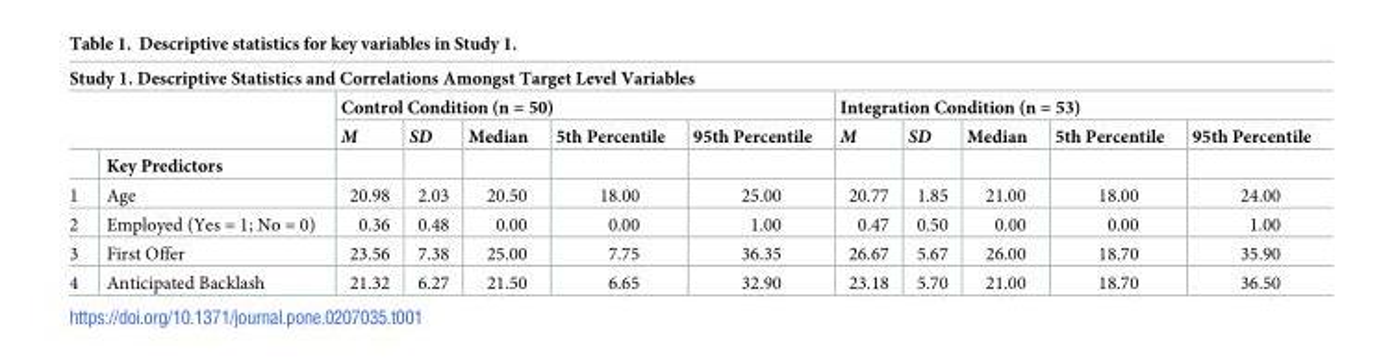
<table><thead><tr><td colspan="12">Study 1. Descriptive Statistics and Correlations Amongst Target Level Variables</td></tr><tr><td rowspan="2"></td><td rowspan="2"></td><td colspan="5">Control Condition (n = 50)</td><td colspan="5">Integration Condition (n = 53)</td></tr><tr><td>M</td><td>SD</td><td>Median</td><td>5th Percentile</td><td>95th Percentile</td><td>M</td><td>SD</td><td>Median</td><td>5th Percentile</td><td>95th Percentile</td></tr></thead><tbody><tr><td></td><td>Key Predictors</td><td></td><td></td><td></td><td></td><td></td><td></td><td></td><td></td><td></td><td></td></tr><tr><td>1</td><td>Age</td><td>20.98</td><td>2.03</td><td>20.50</td><td>18.00</td><td>25.00</td><td>20.77</td><td>1.85</td><td>21.00</td><td>18.00</td><td>24.00</td></tr><tr><td>2</td><td>Employed (Yes = 1; No = 0)</td><td>0.36</td><td>0.48</td><td>0.00</td><td>0.00</td><td>1.00</td><td>0.47</td><td>0.50</td><td>0.00</td><td>0.00</td><td>1.00</td></tr><tr><td>3</td><td>First Offer</td><td>23.56</td><td>7.38</td><td>25.00</td><td>7.75</td><td>36.35</td><td>26.67</td><td>5.67</td><td>26.00</td><td>18.70</td><td>35.90</td></tr><tr><td>4</td><td>Anticipated Backlash</td><td>21.32</td><td>6.27</td><td>21.50</td><td>6.65</td><td>32.90</td><td>23.18</td><td>5.70</td><td>21.00</td><td>18.70</td><td>36.50</td></tr></tbody></table>